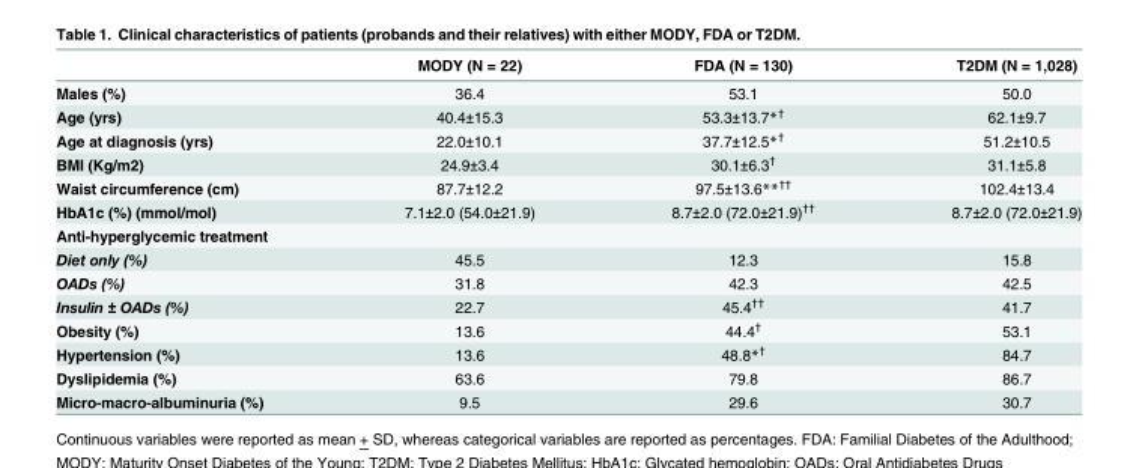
<table><thead><tr><td></td><td>MODY (N = 22)</td><td>FDA (N = 130)</td><td>T2DM (N = 1,028)</td></tr></thead><tbody><tr><td>Males (%)</td><td>36.4</td><td>53.1</td><td>50.0</td></tr><tr><td>Age (yrs)</td><td>40.4±15.3</td><td>53.3±13.7*<sup>†</sup></td><td>62.1±9.7</td></tr><tr><td>Age at diagnosis (yrs)</td><td>22.0±10.1</td><td>37.7±12.5*<sup>†</sup></td><td>51.2±10.5</td></tr><tr><td>BMI (Kg/m2)</td><td>24.9±3.4</td><td>30.1±6.3<sup>†</sup></td><td>31.1±5.8</td></tr><tr><td>Waist circumference (cm)</td><td>87.7±12.2</td><td>97.5±13.6**<sup>††</sup></td><td>102.4±13.4</td></tr><tr><td>HbA1c (%) (mmol/mol)</td><td>7.1±2.0 (54.0±21.9)</td><td>8.7±2.0 (72.0±21.9)<sup>††</sup></td><td>8.7±2.0 (72.0±21.9)</td></tr><tr><td colspan="4">Anti-hyperglycemic treatment</td></tr><tr><td>Diet only (%)</td><td>45.5</td><td>12.3</td><td>15.8</td></tr><tr><td>OADs (%)</td><td>31.8</td><td>42.3</td><td>42.5</td></tr><tr><td>Insulin ± OADs (%)</td><td>22.7</td><td>45.4<sup>††</sup></td><td>41.7</td></tr><tr><td>Obesity (%)</td><td>13.6</td><td>44.4<sup>†</sup></td><td>53.1</td></tr><tr><td>Hypertension (%)</td><td>13.6</td><td>48.8*<sup>†</sup></td><td>84.7</td></tr><tr><td>Dyslipidemia (%)</td><td>63.6</td><td>79.8</td><td>86.7</td></tr><tr><td>Micro-macro-albuminuria (%)</td><td>9.5</td><td>29.6</td><td>30.7</td></tr></tbody></table>